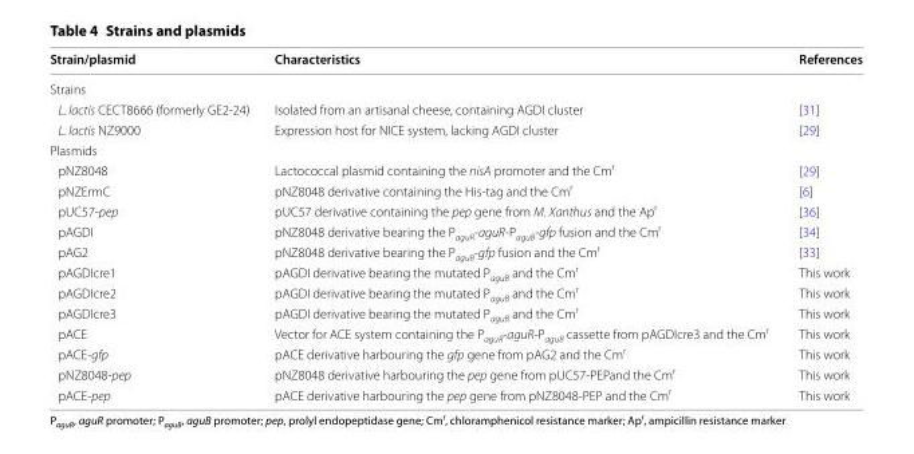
<table><thead><tr><td>Strain/plasmid</td><td>Characteristics</td><td>References</td></tr></thead><tbody><tr><td colspan="3">Strains</td></tr><tr><td>L. lactis CECT8666 (formerly GE2‑24)</td><td>Isolated from an artisanal cheese, containing AGDI cluster</td><td>[31]</td></tr><tr><td>L. lactis NZ9000</td><td>Expression host for NICE system, lacking AGDI cluster</td><td>[29]</td></tr><tr><td colspan="3">Plasmids</td></tr><tr><td>pNZ8048</td><td>Lactococcal plasmid containing the nisA promoter and the Cm<sup>r</sup></td><td>[29]</td></tr><tr><td>pNZErmC</td><td>pNZ8048 derivative containing the His‑tag and the Cm<sup>r</sup></td><td>[6]</td></tr><tr><td>pUC57‑pep</td><td>pUC57 derivative containing the pep gene from M. Xanthus and the Ap<sup>r</sup></td><td>[36]</td></tr><tr><td>pAGDI</td><td>pNZ8048 derivative bearing the P<sub>aguR</sub>‑aguR‑P<sub>aguB</sub>‑gfp fusion and the Cm<sup>r</sup></td><td>[34]</td></tr><tr><td>pAG2</td><td>pNZ8048 derivative bearing the P<sub>aguB</sub>‑gfp fusion and the Cm<sup>r</sup></td><td>[33]</td></tr><tr><td>pAGDIcre1</td><td>pAGDI derivative bearing the mutated P<sub>aguB</sub> and the Cm<sup>r</sup></td><td>This work</td></tr><tr><td>pAGDIcre2</td><td>pAGDI derivative bearing the mutated P<sub>aguB</sub> and the Cm<sup>r</sup></td><td>This work</td></tr><tr><td>pAGDIcre3</td><td>pAGDI derivative bearing the mutated P<sub>aguB</sub> and the Cm<sup>r</sup></td><td>This work</td></tr><tr><td>pACE</td><td>Vector for ACE system containing the P<sub>aguR</sub>‑aguR‑P<sub>aguB</sub> cassette from pAGDIcre3 and the Cm<sup>r</sup></td><td>This work</td></tr><tr><td>pACE‑gfp</td><td>pACE derivative harbouring the gfp gene from pAG2 and the Cm<sup>r</sup></td><td>This work</td></tr><tr><td>pNZ8048‑pep</td><td>pNZ8048 derivative harbouring the pep gene from pUC57‑PEPand the Cm<sup>r</sup></td><td>This work</td></tr><tr><td>pACE‑pep</td><td>pACE derivative harbouring the pep gene from pNZ8048‑PEP and the Cm<sup>r</sup></td><td>This work</td></tr></tbody></table>